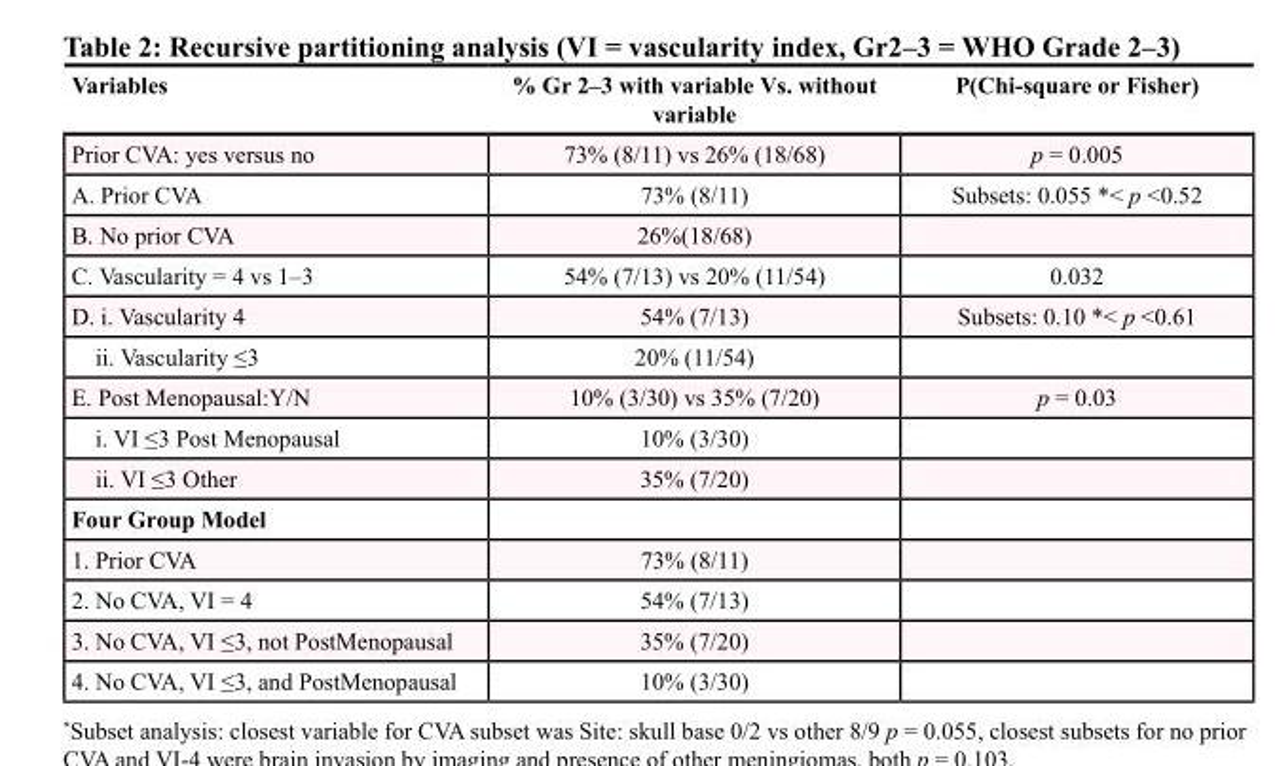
<table><thead><tr><td>Variables</td><td>% Gr 2–3 with variable Vs. without variable</td><td>P(Chi-square or Fisher)</td></tr></thead><tbody><tr><td>Prior CVA: yes versus no</td><td>73% (8/11) vs 26% (18/68)</td><td>p = 0.005</td></tr><tr><td>A. Prior CVA</td><td>73% (8/11)</td><td>Subsets: 0.055 *&lt; p &lt;0.52</td></tr><tr><td>B. No prior CVA</td><td>26%(18/68)</td><td></td></tr><tr><td>C. Vascularity = 4 vs 1–3</td><td>54% (7/13) vs 20% (11/54)</td><td>0.032</td></tr><tr><td>D. i. Vascularity 4</td><td>54% (7/13)</td><td>Subsets: 0.10 *&lt; p &lt;0.61</td></tr><tr><td>ii. Vascularity ≤3</td><td>20% (11/54)</td><td></td></tr><tr><td>E. Post Menopausal:Y/N</td><td>10% (3/30) vs 35% (7/20)</td><td>p = 0.03</td></tr><tr><td>i. VI ≤3 Post Menopausal</td><td>10% (3/30)</td><td></td></tr><tr><td>ii. VI ≤3 Other</td><td>35% (7/20)</td><td></td></tr><tr><td colspan="3">Four Group Model</td></tr><tr><td>1. Prior CVA</td><td>73% (8/11)</td><td></td></tr><tr><td>2. No CVA, VI = 4</td><td>54% (7/13)</td><td></td></tr><tr><td>3. No CVA, VI ≤3, not PostMenopausal</td><td>35% (7/20)</td><td></td></tr><tr><td>4. No CVA, VI ≤3, and PostMenopausal</td><td>10% (3/30)</td><td></td></tr></tbody></table>